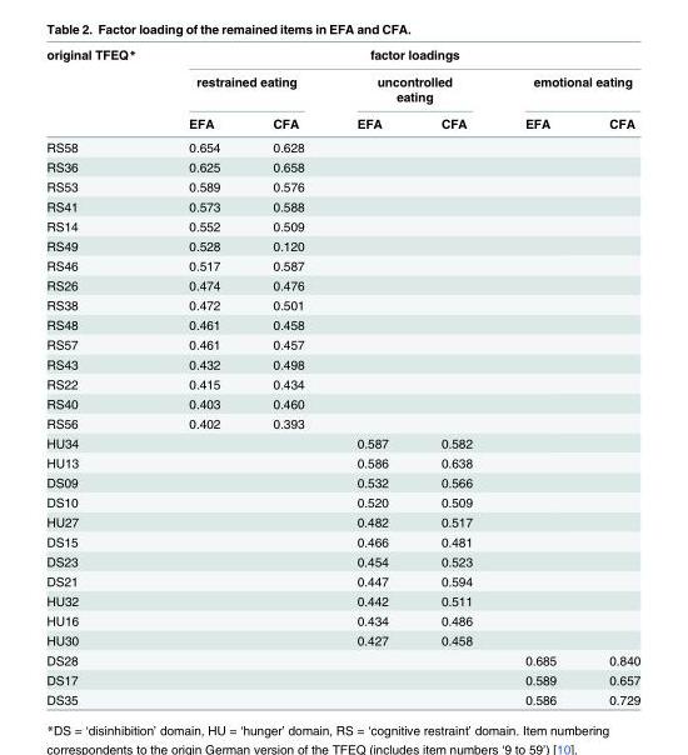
<table><thead><tr><td rowspan="3">original TFEQ*</td><td colspan="6">factor loadings</td></tr><tr><td colspan="2">restrained eating</td><td colspan="2">uncontrolled eating</td><td colspan="2">emotional eating</td></tr><tr><td>EFA</td><td>CFA</td><td>EFA</td><td>CFA</td><td>EFA</td><td>CFA</td></tr></thead><tbody><tr><td>RS58</td><td>0.654</td><td>0.628</td><td></td><td></td><td></td><td></td></tr><tr><td>RS36</td><td>0.625</td><td>0.658</td><td></td><td></td><td></td><td></td></tr><tr><td>RS53</td><td>0.589</td><td>0.576</td><td></td><td></td><td></td><td></td></tr><tr><td>RS41</td><td>0.573</td><td>0.588</td><td></td><td></td><td></td><td></td></tr><tr><td>RS14</td><td>0.552</td><td>0.509</td><td></td><td></td><td></td><td></td></tr><tr><td>RS49</td><td>0.528</td><td>0.120</td><td></td><td></td><td></td><td></td></tr><tr><td>RS46</td><td>0.517</td><td>0.587</td><td></td><td></td><td></td><td></td></tr><tr><td>RS26</td><td>0.474</td><td>0.476</td><td></td><td></td><td></td><td></td></tr><tr><td>RS38</td><td>0.472</td><td>0.501</td><td></td><td></td><td></td><td></td></tr><tr><td>RS48</td><td>0.461</td><td>0.458</td><td></td><td></td><td></td><td></td></tr><tr><td>RS57</td><td>0.461</td><td>0.457</td><td></td><td></td><td></td><td></td></tr><tr><td>RS43</td><td>0.432</td><td>0.498</td><td></td><td></td><td></td><td></td></tr><tr><td>RS22</td><td>0.415</td><td>0.434</td><td></td><td></td><td></td><td></td></tr><tr><td>RS40</td><td>0.403</td><td>0.460</td><td></td><td></td><td></td><td></td></tr><tr><td>RS56</td><td>0.402</td><td>0.393</td><td></td><td></td><td></td><td></td></tr><tr><td>HU34</td><td></td><td></td><td>0.587</td><td>0.582</td><td></td><td></td></tr><tr><td>HU13</td><td></td><td></td><td>0.586</td><td>0.638</td><td></td><td></td></tr><tr><td>DS09</td><td></td><td></td><td>0.532</td><td>0.566</td><td></td><td></td></tr><tr><td>DS10</td><td></td><td></td><td>0.520</td><td>0.509</td><td></td><td></td></tr><tr><td>HU27</td><td></td><td></td><td>0.482</td><td>0.517</td><td></td><td></td></tr><tr><td>DS15</td><td></td><td></td><td>0.466</td><td>0.481</td><td></td><td></td></tr><tr><td>DS23</td><td></td><td></td><td>0.454</td><td>0.523</td><td></td><td></td></tr><tr><td>DS21</td><td></td><td></td><td>0.447</td><td>0.594</td><td></td><td></td></tr><tr><td>HU32</td><td></td><td></td><td>0.442</td><td>0.511</td><td></td><td></td></tr><tr><td>HU16</td><td></td><td></td><td>0.434</td><td>0.486</td><td></td><td></td></tr><tr><td>HU30</td><td></td><td></td><td>0.427</td><td>0.458</td><td></td><td></td></tr><tr><td>DS28</td><td></td><td></td><td></td><td></td><td>0.685</td><td>0.840</td></tr><tr><td>DS17</td><td></td><td></td><td></td><td></td><td>0.589</td><td>0.657</td></tr><tr><td>DS35</td><td></td><td></td><td></td><td></td><td>0.586</td><td>0.729</td></tr></tbody></table>